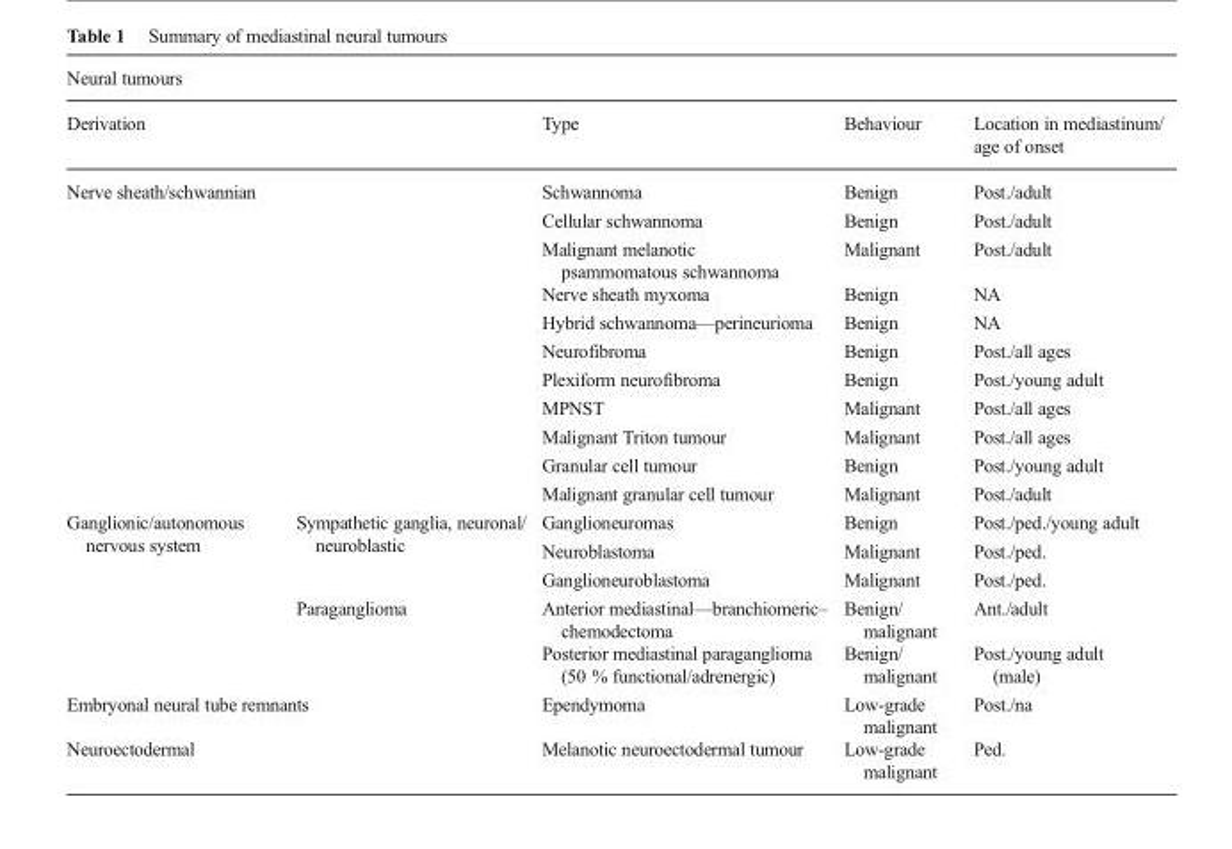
<table><thead><tr><td colspan="5">Neural tumours</td></tr><tr><td colspan="2">Derivation</td><td>Type</td><td>Behaviour</td><td>Location in mediastinum/ age of onset</td></tr></thead><tbody><tr><td rowspan="11" colspan="2">Nerve sheath/schwannian</td><td>Schwannoma</td><td>Benign</td><td>Post./adult</td></tr><tr><td>Cellular schwannoma</td><td>Benign</td><td>Post./adult</td></tr><tr><td>Malignant melanotic psammomatous schwannoma</td><td>Malignant</td><td>Post./adult</td></tr><tr><td>Nerve sheath myxoma</td><td>Benign</td><td>NA</td></tr><tr><td>Hybrid schwannoma—perineurioma</td><td>Benign</td><td>NA</td></tr><tr><td>Neurofibroma</td><td>Benign</td><td>Post./all ages</td></tr><tr><td>Plexiform neurofibroma</td><td>Benign</td><td>Post./young adult</td></tr><tr><td>MPNST</td><td>Malignant</td><td>Post./all ages</td></tr><tr><td>Malignant Triton tumour</td><td>Malignant</td><td>Post./all ages</td></tr><tr><td>Granular cell tumour</td><td>Benign</td><td>Post./young adult</td></tr><tr><td>Malignant granular cell tumour</td><td>Malignant</td><td>Post./adult</td></tr><tr><td rowspan="5">Ganglionic/autonomous nervous system</td><td rowspan="3">Sympathetic ganglia, neuronal/ neuroblastic</td><td>Ganglioneuromas</td><td>Benign</td><td>Post./ped./young adult</td></tr><tr><td>Neuroblastoma</td><td>Malignant</td><td>Post./ped.</td></tr><tr><td>Ganglioneuroblastoma</td><td>Malignant</td><td>Post./ped.</td></tr><tr><td rowspan="2">Paraganglioma</td><td>Anterior mediastinal—branchiomeric– chemodectoma</td><td>Benign/ malignant</td><td>Ant./adult</td></tr><tr><td>Posterior mediastinal paraganglioma (50 % functional/adrenergic)</td><td>Benign/ malignant</td><td>Post./young adult (male)</td></tr><tr><td colspan="2">Embryonal neural tube remnants</td><td>Ependymoma</td><td>Low-grade malignant</td><td>Post./na</td></tr><tr><td colspan="2">Neuroectodermal</td><td>Melanotic neuroectodermal tumour</td><td>Low-grade malignant</td><td>Ped.</td></tr></tbody></table>